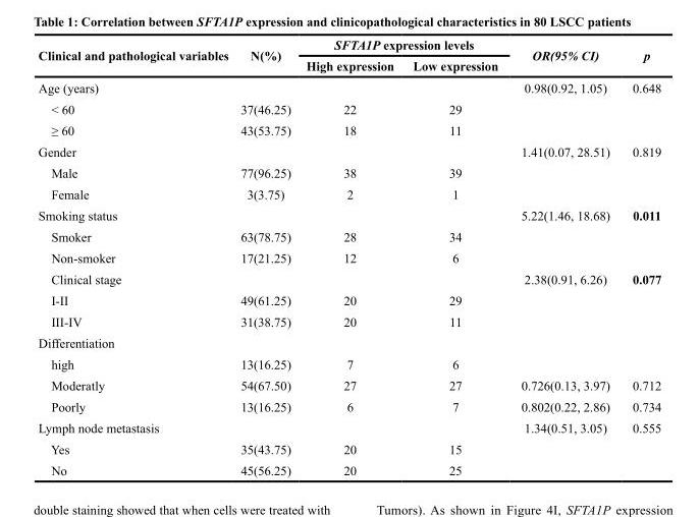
<table><thead><tr><td rowspan="2">Clinical and pathological variables</td><td rowspan="2">N(%)</td><td colspan="2">SFTA1P expression levels</td><td rowspan="2">OR(95% CI)</td><td rowspan="2">p</td></tr><tr><td>High expression</td><td>Low expression</td></tr></thead><tbody><tr><td>Age (years)</td><td></td><td></td><td></td><td>0.98(0.92, 1.05)</td><td>0.648</td></tr><tr><td>&lt; 60</td><td>37(46.25)</td><td>22</td><td>29</td><td></td><td></td></tr><tr><td>≥ 60</td><td>43(53.75)</td><td>18</td><td>11</td><td></td><td></td></tr><tr><td>Gender</td><td></td><td></td><td></td><td>1.41(0.07, 28.51)</td><td>0.819</td></tr><tr><td>Male</td><td>77(96.25)</td><td>38</td><td>39</td><td></td><td></td></tr><tr><td>Female</td><td>3(3.75)</td><td>2</td><td>1</td><td></td><td></td></tr><tr><td>Smoking status</td><td></td><td></td><td></td><td>5.22(1.46, 18.68)</td><td>0.011</td></tr><tr><td>Smoker</td><td>63(78.75)</td><td>28</td><td>34</td><td></td><td></td></tr><tr><td>Non-smoker</td><td>17(21.25)</td><td>12</td><td>6</td><td></td><td></td></tr><tr><td>Clinical stage</td><td></td><td></td><td></td><td>2.38(0.91, 6.26)</td><td>0.077</td></tr><tr><td>I-II</td><td>49(61.25)</td><td>20</td><td>29</td><td></td><td></td></tr><tr><td>III-IV</td><td>31(38.75)</td><td>20</td><td>11</td><td></td><td></td></tr><tr><td colspan="6">Differentiation</td></tr><tr><td>high</td><td>13(16.25)</td><td>7</td><td>6</td><td></td><td></td></tr><tr><td>Moderatly</td><td>54(67.50)</td><td>27</td><td>27</td><td>0.726(0.13, 3.97)</td><td>0.712</td></tr><tr><td>Poorly</td><td>13(16.25)</td><td>6</td><td>7</td><td>0.802(0.22, 2.86)</td><td>0.734</td></tr><tr><td>Lymph node metastasis</td><td></td><td></td><td></td><td>1.34(0.51, 3.05)</td><td>0.555</td></tr><tr><td>Yes</td><td>35(43.75)</td><td>20</td><td>15</td><td></td><td></td></tr><tr><td>No</td><td>45(56.25)</td><td>20</td><td>25</td><td></td><td></td></tr></tbody></table>